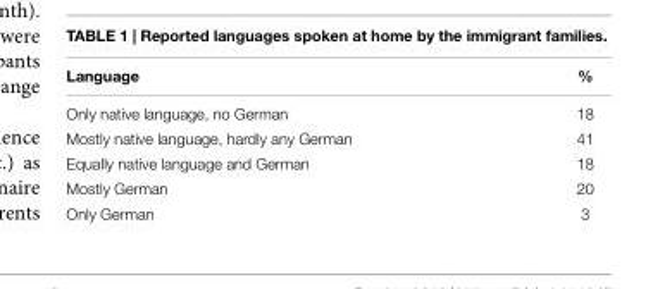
<table><thead><tr><td>Language</td><td>%</td></tr></thead><tbody><tr><td>Only native language, no German</td><td>18</td></tr><tr><td>Mostly native language, hardly any German</td><td>41</td></tr><tr><td>Equally native language and German</td><td>18</td></tr><tr><td>Mostly German</td><td>20</td></tr><tr><td>Only German</td><td>3</td></tr></tbody></table>